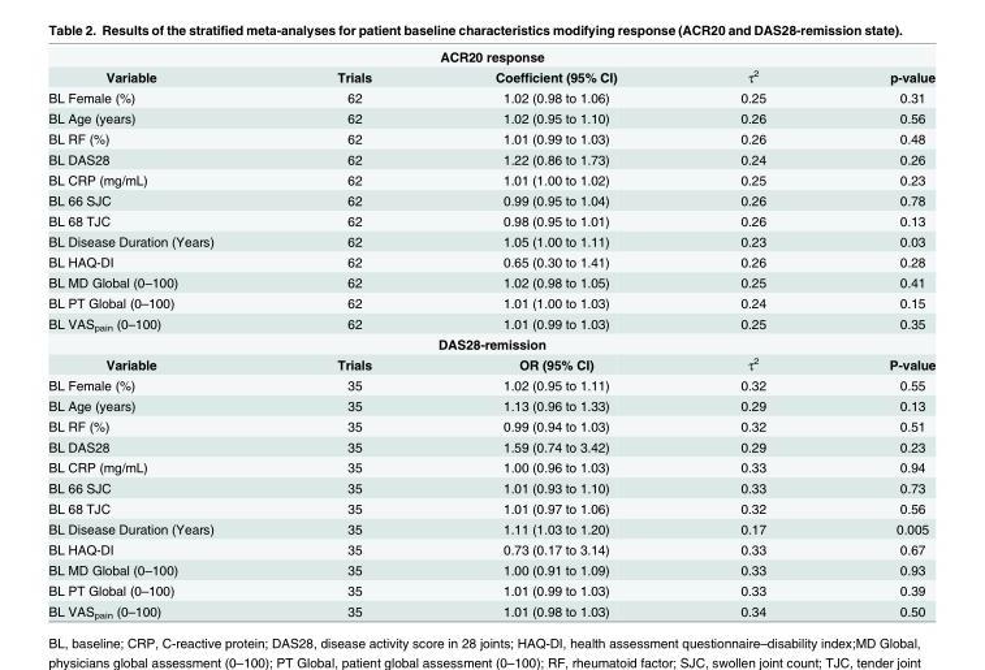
<table><tbody><tr><td colspan="5">ACR20 response</td></tr><tr><td>Variable</td><td>Trials</td><td>Coefficient (95% CI)</td><td>τ<sup>2</sup></td><td>p-value</td></tr><tr><td>BL Female (%)</td><td>62</td><td>1.02 (0.98 to 1.06)</td><td>0.25</td><td>0.31</td></tr><tr><td>BL Age (years)</td><td>62</td><td>1.02 (0.95 to 1.10)</td><td>0.26</td><td>0.56</td></tr><tr><td>BL RF (%)</td><td>62</td><td>1.01 (0.99 to 1.03)</td><td>0.26</td><td>0.48</td></tr><tr><td>BL DAS28</td><td>62</td><td>1.22 (0.86 to 1.73)</td><td>0.24</td><td>0.26</td></tr><tr><td>BL CRP (mg/mL)</td><td>62</td><td>1.01 (1.00 to 1.02)</td><td>0.25</td><td>0.23</td></tr><tr><td>BL 66 SJC</td><td>62</td><td>0.99 (0.95 to 1.04)</td><td>0.26</td><td>0.78</td></tr><tr><td>BL 68 TJC</td><td>62</td><td>0.98 (0.95 to 1.01)</td><td>0.26</td><td>0.13</td></tr><tr><td>BL Disease Duration (Years)</td><td>62</td><td>1.05 (1.00 to 1.11)</td><td>0.23</td><td>0.03</td></tr><tr><td>BL HAQ-DI</td><td>62</td><td>0.65 (0.30 to 1.41)</td><td>0.26</td><td>0.28</td></tr><tr><td>BL MD Global (0–100)</td><td>62</td><td>1.02 (0.98 to 1.05)</td><td>0.25</td><td>0.41</td></tr><tr><td>BL PT Global (0–100)</td><td>62</td><td>1.01 (1.00 to 1.03)</td><td>0.24</td><td>0.15</td></tr><tr><td>BL VAS<sub>pain</sub> (0–100)</td><td>62</td><td>1.01 (0.99 to 1.03)</td><td>0.25</td><td>0.35</td></tr><tr><td colspan="5">DAS28-remission</td></tr><tr><td>Variable</td><td>Trials</td><td>OR (95% CI)</td><td>τ<sup>2</sup></td><td>P-value</td></tr><tr><td>BL Female (%)</td><td>35</td><td>1.02 (0.95 to 1.11)</td><td>0.32</td><td>0.55</td></tr><tr><td>BL Age (years)</td><td>35</td><td>1.13 (0.96 to 1.33)</td><td>0.29</td><td>0.13</td></tr><tr><td>BL RF (%)</td><td>35</td><td>0.99 (0.94 to 1.03)</td><td>0.32</td><td>0.51</td></tr><tr><td>BL DAS28</td><td>35</td><td>1.59 (0.74 to 3.42)</td><td>0.29</td><td>0.23</td></tr><tr><td>BL CRP (mg/mL)</td><td>35</td><td>1.00 (0.96 to 1.03)</td><td>0.33</td><td>0.94</td></tr><tr><td>BL 66 SJC</td><td>35</td><td>1.01 (0.93 to 1.10)</td><td>0.33</td><td>0.73</td></tr><tr><td>BL 68 TJC</td><td>35</td><td>1.01 (0.97 to 1.06)</td><td>0.32</td><td>0.56</td></tr><tr><td>BL Disease Duration (Years)</td><td>35</td><td>1.11 (1.03 to 1.20)</td><td>0.17</td><td>0.005</td></tr><tr><td>BL HAQ-DI</td><td>35</td><td>0.73 (0.17 to 3.14)</td><td>0.33</td><td>0.67</td></tr><tr><td>BL MD Global (0–100)</td><td>35</td><td>1.00 (0.91 to 1.09)</td><td>0.33</td><td>0.93</td></tr><tr><td>BL PT Global (0–100)</td><td>35</td><td>1.01 (0.99 to 1.03)</td><td>0.33</td><td>0.39</td></tr><tr><td>BL VAS<sub>pain</sub> (0–100)</td><td>35</td><td>1.01 (0.98 to 1.03)</td><td>0.34</td><td>0.50</td></tr></tbody></table>